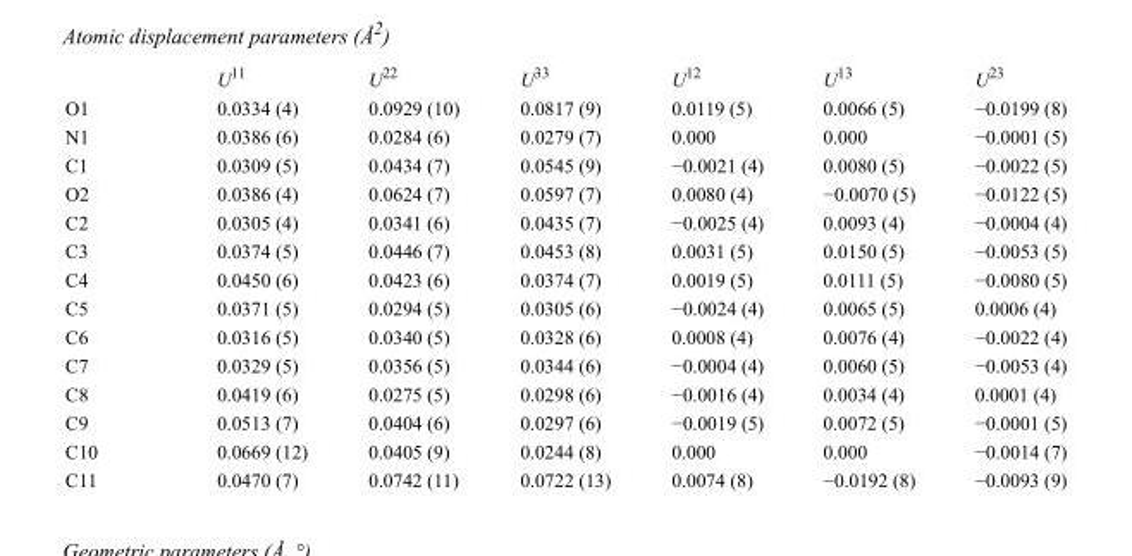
<table><thead><tr><td></td><td>U<sup>11</sup></td><td>U<sup>22</sup></td><td>U<sup>33</sup></td><td>U<sup>12</sup></td><td>U<sup>13</sup></td><td>U<sup>23</sup></td></tr></thead><tbody><tr><td>O1</td><td>0.0334 (4)</td><td>0.0929 (10)</td><td>0.0817 (9)</td><td>0.0119 (5)</td><td>0.0066 (5)</td><td>−0.0199 (8)</td></tr><tr><td>N1</td><td>0.0386 (6)</td><td>0.0284 (6)</td><td>0.0279 (7)</td><td>0.000</td><td>0.000</td><td>−0.0001 (5)</td></tr><tr><td>C1</td><td>0.0309 (5)</td><td>0.0434 (7)</td><td>0.0545 (9)</td><td>−0.0021 (4)</td><td>0.0080 (5)</td><td>−0.0022 (5)</td></tr><tr><td>O2</td><td>0.0386 (4)</td><td>0.0624 (7)</td><td>0.0597 (7)</td><td>0.0080 (4)</td><td>−0.0070 (5)</td><td>−0.0122 (5)</td></tr><tr><td>C2</td><td>0.0305 (4)</td><td>0.0341 (6)</td><td>0.0435 (7)</td><td>−0.0025 (4)</td><td>0.0093 (4)</td><td>−0.0004 (4)</td></tr><tr><td>C3</td><td>0.0374 (5)</td><td>0.0446 (7)</td><td>0.0453 (8)</td><td>0.0031 (5)</td><td>0.0150 (5)</td><td>−0.0053 (5)</td></tr><tr><td>C4</td><td>0.0450 (6)</td><td>0.0423 (6)</td><td>0.0374 (7)</td><td>0.0019 (5)</td><td>0.0111 (5)</td><td>−0.0080 (5)</td></tr><tr><td>C5</td><td>0.0371 (5)</td><td>0.0294 (5)</td><td>0.0305 (6)</td><td>−0.0024 (4)</td><td>0.0065 (5)</td><td>0.0006 (4)</td></tr><tr><td>C6</td><td>0.0316 (5)</td><td>0.0340 (5)</td><td>0.0328 (6)</td><td>0.0008 (4)</td><td>0.0076 (4)</td><td>−0.0022 (4)</td></tr><tr><td>C7</td><td>0.0329 (5)</td><td>0.0356 (5)</td><td>0.0344 (6)</td><td>−0.0004 (4)</td><td>0.0060 (5)</td><td>−0.0053 (4)</td></tr><tr><td>C8</td><td>0.0419 (6)</td><td>0.0275 (5)</td><td>0.0298 (6)</td><td>−0.0016 (4)</td><td>0.0034 (4)</td><td>0.0001 (4)</td></tr><tr><td>C9</td><td>0.0513 (7)</td><td>0.0404 (6)</td><td>0.0297 (6)</td><td>−0.0019 (5)</td><td>0.0072 (5)</td><td>−0.0001 (5)</td></tr><tr><td>C10</td><td>0.0669 (12)</td><td>0.0405 (9)</td><td>0.0244 (8)</td><td>0.000</td><td>0.000</td><td>−0.0014 (7)</td></tr><tr><td>C11</td><td>0.0470 (7)</td><td>0.0742 (11)</td><td>0.0722 (13)</td><td>0.0074 (8)</td><td>−0.0192 (8)</td><td>−0.0093 (9)</td></tr></tbody></table>